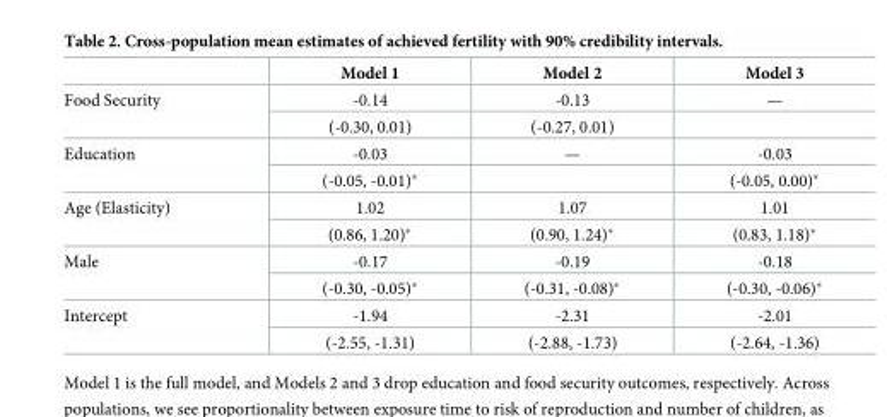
<table><thead><tr><td></td><td>Model 1</td><td>Model 2</td><td>Model 3</td></tr></thead><tbody><tr><td rowspan="2">Food Security</td><td>-0.14</td><td>-0.13</td><td>—</td></tr><tr><td>(-0.30, 0.01)</td><td>(-0.27, 0.01)</td><td></td></tr><tr><td rowspan="2">Education</td><td>-0.03</td><td>—</td><td>-0.03</td></tr><tr><td>(-0.05, -0.01)*</td><td></td><td>(-0.05, 0.00)*</td></tr><tr><td rowspan="2">Age (Elasticity)</td><td>1.02</td><td>1.07</td><td>1.01</td></tr><tr><td>(0.86, 1.20)*</td><td>(0.90, 1.24)*</td><td>(0.83, 1.18)*</td></tr><tr><td rowspan="2">Male</td><td>-0.17</td><td>-0.19</td><td>-0.18</td></tr><tr><td>(-0.30, -0.05)*</td><td>(-0.31, -0.08)*</td><td>(-0.30, -0.06)*</td></tr><tr><td rowspan="2">Intercept</td><td>-1.94</td><td>-2.31</td><td>-2.01</td></tr><tr><td>(-2.55, -1.31)</td><td>(-2.88, -1.73)</td><td>(-2.64, -1.36)</td></tr></tbody></table>